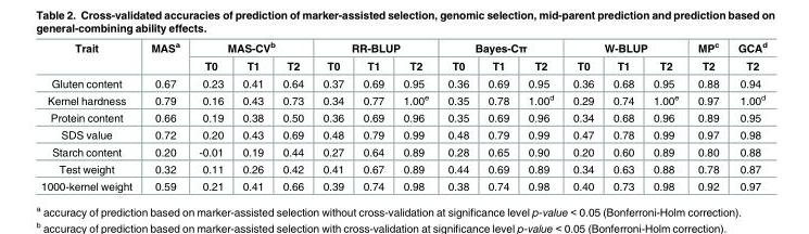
<table><thead><tr><td rowspan="2">Trait</td><td rowspan="2">MAS<sup>a</sup></td><td colspan="3">MAS-CV<sup>b</sup></td><td colspan="3">RR-BLUP</td><td colspan="3">Bayes-Cπ</td><td colspan="3">W-BLUP</td><td rowspan="2">MP<sup>c</sup> T2</td><td rowspan="2">GCA<sup>d</sup> T2</td></tr><tr><td>T0</td><td>T1</td><td>T2</td><td>T0</td><td>T1</td><td>T2</td><td>T0</td><td>T1</td><td>T2</td><td>T0</td><td>T1</td><td>T2</td></tr></thead><tbody><tr><td>Gluten content</td><td>0.67</td><td>0.23</td><td>0.41</td><td>0.64</td><td>0.37</td><td>0.69</td><td>0.95</td><td>0.36</td><td>0.69</td><td>0.95</td><td>0.36</td><td>0.68</td><td>0.95</td><td>0.88</td><td>0.94</td></tr><tr><td>Kernel hardness</td><td>0.79</td><td>0.16</td><td>0.43</td><td>0.73</td><td>0.34</td><td>0.77</td><td>1.00<sup>e</sup></td><td>0.35</td><td>0.78</td><td>1.00<sup>d</sup></td><td>0.29</td><td>0.74</td><td>1.00<sup>e</sup></td><td>0.97</td><td>1.00<sup>d</sup></td></tr><tr><td>Protein content</td><td>0.66</td><td>0.19</td><td>0.38</td><td>0.50</td><td>0.36</td><td>0.69</td><td>0.96</td><td>0.35</td><td>0.69</td><td>0.96</td><td>0.34</td><td>0.68</td><td>0.96</td><td>0.89</td><td>0.95</td></tr><tr><td>SDS value</td><td>0.72</td><td>0.20</td><td>0.43</td><td>0.69</td><td>0.48</td><td>0.79</td><td>0.99</td><td>0.48</td><td>0.79</td><td>0.99</td><td>0.47</td><td>0.78</td><td>0.99</td><td>0.97</td><td>0.98</td></tr><tr><td>Starch content</td><td>0.20</td><td>-0.01</td><td>0.19</td><td>0.44</td><td>0.27</td><td>0.64</td><td>0.89</td><td>0.28</td><td>0.65</td><td>0.90</td><td>0.20</td><td>0.60</td><td>0.89</td><td>0.80</td><td>0.88</td></tr><tr><td>Test weight</td><td>0.32</td><td>0.11</td><td>0.26</td><td>0.42</td><td>0.41</td><td>0.67</td><td>0.89</td><td>0.44</td><td>0.69</td><td>0.89</td><td>0.34</td><td>0.63</td><td>0.88</td><td>0.78</td><td>0.87</td></tr><tr><td>1000-kernel weight</td><td>0.59</td><td>0.21</td><td>0.41</td><td>0.66</td><td>0.39</td><td>0.74</td><td>0.98</td><td>0.38</td><td>0.74</td><td>0.98</td><td>0.40</td><td>0.73</td><td>0.98</td><td>0.92</td><td>0.97</td></tr></tbody></table>